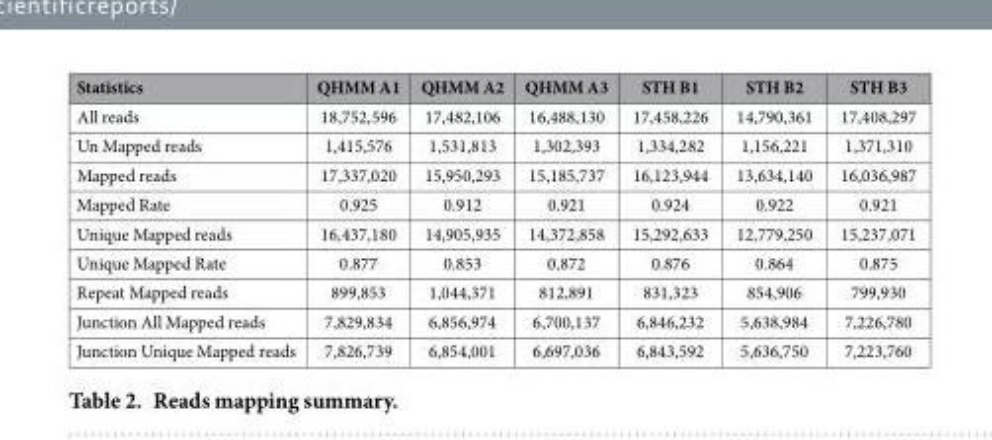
<table><thead><tr><td>Statistics</td><td>QHMM A1</td><td>QHMM A2</td><td>QHMM A3</td><td>STH B1</td><td>STH B2</td><td>STH B3</td></tr></thead><tbody><tr><td>All reads</td><td>18,752,596</td><td>17,482,106</td><td>16,488,130</td><td>17,458,226</td><td>14,790,361</td><td>17,408,297</td></tr><tr><td>Un Mapped reads</td><td>1,415,576</td><td>1,531,813</td><td>1,302,393</td><td>1,334,282</td><td>1,156,221</td><td>1,371,310</td></tr><tr><td>Mapped reads</td><td>17,337,020</td><td>15,950,293</td><td>15,185,737</td><td>16,123,944</td><td>13,634,140</td><td>16,036,987</td></tr><tr><td>Mapped Rate</td><td>0.925</td><td>0.912</td><td>0.921</td><td>0.924</td><td>0.922</td><td>0.921</td></tr><tr><td>Unique Mapped reads</td><td>16,437,180</td><td>14,905,935</td><td>14,372,858</td><td>15,292,633</td><td>12,779,250</td><td>15,237,071</td></tr><tr><td>Unique Mapped Rate</td><td>0.877</td><td>0.853</td><td>0.872</td><td>0.876</td><td>0.864</td><td>0.875</td></tr><tr><td>Repeat Mapped reads</td><td>899,853</td><td>1,044,371</td><td>812,891</td><td>831,323</td><td>854,906</td><td>799,930</td></tr><tr><td>Junction All Mapped reads</td><td>7,829,834</td><td>6,856,974</td><td>6,700,137</td><td>6,846,232</td><td>5,638,984</td><td>7,226,780</td></tr><tr><td>Junction Unique Mapped reads</td><td>7,826,739</td><td>6,854,001</td><td>6,697,036</td><td>6,843,592</td><td>5,636,750</td><td>7,223,760</td></tr></tbody></table>